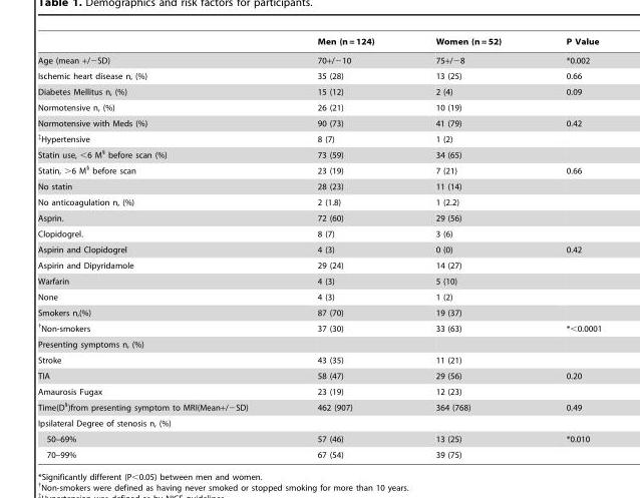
<table><thead><tr><td></td><td>Men (n = 124)</td><td>Women (n = 52)</td><td>P Value</td></tr></thead><tbody><tr><td>Age (mean +/−SD)</td><td>70+/−10</td><td>75+/−8</td><td>*0.002</td></tr><tr><td>Ischemic heart disease n, (%)</td><td>35 (28)</td><td>13 (25)</td><td>0.66</td></tr><tr><td>Diabetes Mellitus n, (%)</td><td>15 (12)</td><td>2 (4)</td><td>0.09</td></tr><tr><td>Normotensive n, (%)</td><td>26 (21)</td><td>10 (19)</td><td></td></tr><tr><td>Normotensive with Meds (%)</td><td>90 (73)</td><td>41 (79)</td><td>0.42</td></tr><tr><td>‡Hypertensive</td><td>8 (7)</td><td>1 (2)</td><td></td></tr><tr><td>Statin use, &lt;6 M§ before scan (%)</td><td>73 (59)</td><td>34 (65)</td><td></td></tr><tr><td>Statin, &gt;6 M§ before scan</td><td>23 (19)</td><td>7 (21)</td><td>0.66</td></tr><tr><td>No statin</td><td>28 (23)</td><td>11 (14)</td><td></td></tr><tr><td>No anticoagulation n, (%)</td><td>2 (1.8)</td><td>1 (2.2)</td><td></td></tr><tr><td>Asprin.</td><td>72 (60)</td><td>29 (56)</td><td></td></tr><tr><td>Clopidogrel.</td><td>8 (7)</td><td>3 (6)</td><td></td></tr><tr><td>Aspirin and Clopidogrel</td><td>4 (3)</td><td>0 (0)</td><td>0.42</td></tr><tr><td>Aspirin and Dipyridamole</td><td>29 (24)</td><td>14 (27)</td><td></td></tr><tr><td>Warfarin</td><td>4 (3)</td><td>5 (10)</td><td></td></tr><tr><td>None</td><td>4 (3)</td><td>1 (2)</td><td></td></tr><tr><td>Smokers n,(%)</td><td>87 (70)</td><td>19 (37)</td><td></td></tr><tr><td>†Non-smokers</td><td>37 (30)</td><td>33 (63)</td><td>*&lt;0.0001</td></tr><tr><td colspan="4">Presenting symptoms n, (%)</td></tr><tr><td>Stroke</td><td>43 (35)</td><td>11 (21)</td><td></td></tr><tr><td>TIA</td><td>58 (47)</td><td>29 (56)</td><td>0.20</td></tr><tr><td>Amaurosis Fugax</td><td>23 (19)</td><td>12 (23)</td><td></td></tr><tr><td>Time(D§)from presenting symptom to MRI(Mean+/−SD)</td><td>462 (907)</td><td>364 (768)</td><td>0.49</td></tr><tr><td colspan="4">Ipsilateral Degree of stenosis n, (%)</td></tr><tr><td>50–69%</td><td>57 (46)</td><td>13 (25)</td><td>*0.010</td></tr><tr><td>70–99%</td><td>67 (54)</td><td>39 (75)</td><td></td></tr></tbody></table>